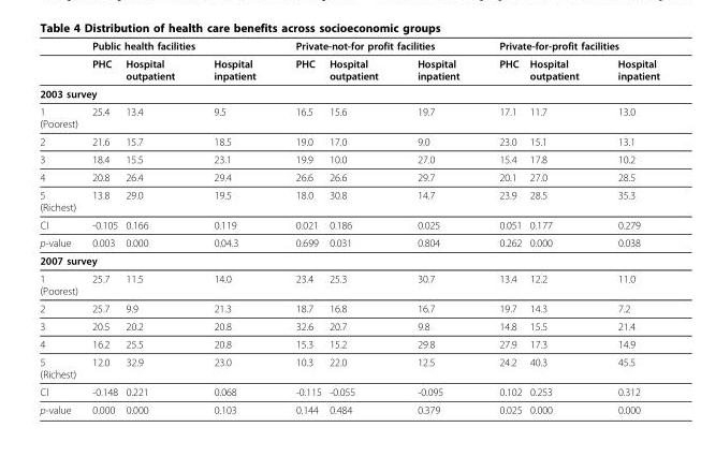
<table><thead><tr><td rowspan="2"></td><td colspan="3">Public health facilities</td><td colspan="3">Private-not-for profit facilities</td><td colspan="3">Private-for-profit facilities</td></tr><tr><td>PHC</td><td>Hospital outpatient</td><td>Hospital inpatient</td><td>PHC</td><td>Hospital outpatient</td><td>Hospital inpatient</td><td>PHC</td><td>Hospital outpatient</td><td>Hospital inpatient</td></tr></thead><tbody><tr><td colspan="10">2003 survey</td></tr><tr><td>1 (Poorest)</td><td>25.4</td><td>13.4</td><td>9.5</td><td>16.5</td><td>15.6</td><td>19.7</td><td>17.1</td><td>11.7</td><td>13.0</td></tr><tr><td>2</td><td>21.6</td><td>15.7</td><td>18.5</td><td>19.0</td><td>17.0</td><td>9.0</td><td>23.0</td><td>15.1</td><td>13.1</td></tr><tr><td>3</td><td>18.4</td><td>15.5</td><td>23.1</td><td>19.9</td><td>10.0</td><td>27.0</td><td>15.4</td><td>17.8</td><td>10.2</td></tr><tr><td>4</td><td>20.8</td><td>26.4</td><td>29.4</td><td>26.6</td><td>26.6</td><td>29.7</td><td>20.1</td><td>27.0</td><td>28.5</td></tr><tr><td>5 (Richest)</td><td>13.8</td><td>29.0</td><td>19.5</td><td>18.0</td><td>30.8</td><td>14.7</td><td>23.9</td><td>28.5</td><td>35.3</td></tr><tr><td>CI</td><td>-0.105</td><td>0.166</td><td>0.119</td><td>0.021</td><td>0.186</td><td>0.025</td><td>0.051</td><td>0.177</td><td>0.279</td></tr><tr><td>p-value</td><td>0.003</td><td>0.000</td><td>0.04.3</td><td>0.699</td><td>0.031</td><td>0.804</td><td>0.262</td><td>0.000</td><td>0.038</td></tr><tr><td colspan="10">2007 survey</td></tr><tr><td>1 (Poorest)</td><td>25.7</td><td>11.5</td><td>14.0</td><td>23.4</td><td>25.3</td><td>30.7</td><td>13.4</td><td>12.2</td><td>11.0</td></tr><tr><td>2</td><td>25.7</td><td>9.9</td><td>21.3</td><td>18.7</td><td>16.8</td><td>16.7</td><td>19.7</td><td>14.3</td><td>7.2</td></tr><tr><td>3</td><td>20.5</td><td>20.2</td><td>20.8</td><td>32.6</td><td>20.7</td><td>9.8</td><td>14.8</td><td>15.5</td><td>21.4</td></tr><tr><td>4</td><td>16.2</td><td>25.5</td><td>20.8</td><td>15.3</td><td>15.2</td><td>29.8</td><td>27.9</td><td>17.3</td><td>14.9</td></tr><tr><td>5 (Richest)</td><td>12.0</td><td>32.9</td><td>23.0</td><td>10.3</td><td>22.0</td><td>12.5</td><td>24.2</td><td>40.3</td><td>45.5</td></tr><tr><td>CI</td><td>-0.148</td><td>0.221</td><td>0.068</td><td>-0.115</td><td>-0.055</td><td>-0.095</td><td>0.102</td><td>0.253</td><td>0.312</td></tr><tr><td>p-value</td><td>0.000</td><td>0.000</td><td>0.103</td><td>0.144</td><td>0.484</td><td>0.379</td><td>0.025</td><td>0.000</td><td>0.000</td></tr></tbody></table>